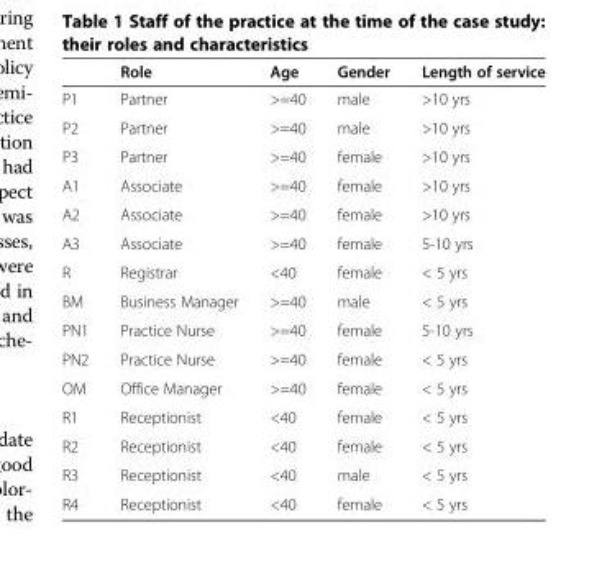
<table><thead><tr><td></td><td>Role</td><td>Age</td><td>Gender</td><td>Length of service</td></tr></thead><tbody><tr><td>P1</td><td>Partner</td><td>&gt;=40</td><td>male</td><td>&gt;10 yrs</td></tr><tr><td>P2</td><td>Partner</td><td>&gt;=40</td><td>male</td><td>&gt;10 yrs</td></tr><tr><td>P3</td><td>Partner</td><td>&gt;=40</td><td>female</td><td>&gt;10 yrs</td></tr><tr><td>A1</td><td>Associate</td><td>&gt;=40</td><td>female</td><td>&gt;10 yrs</td></tr><tr><td>A2</td><td>Associate</td><td>&gt;=40</td><td>female</td><td>&gt;10 yrs</td></tr><tr><td>A3</td><td>Associate</td><td>&gt;=40</td><td>female</td><td>5-10 yrs</td></tr><tr><td>R</td><td>Registrar</td><td>&lt;40</td><td>female</td><td>&lt; 5 yrs</td></tr><tr><td>BM</td><td>Business Manager</td><td>&gt;=40</td><td>male</td><td>&lt; 5 yrs</td></tr><tr><td>PN1</td><td>Practice Nurse</td><td>&gt;=40</td><td>female</td><td>5-10 yrs</td></tr><tr><td>PN2</td><td>Practice Nurse</td><td>&gt;=40</td><td>female</td><td>&lt; 5 yrs</td></tr><tr><td>OM</td><td>Office Manager</td><td>&gt;=40</td><td>female</td><td>&lt; 5 yrs</td></tr><tr><td>R1</td><td>Receptionist</td><td>&lt;40</td><td>female</td><td>&lt; 5 yrs</td></tr><tr><td>R2</td><td>Receptionist</td><td>&lt;40</td><td>female</td><td>&lt; 5 yrs</td></tr><tr><td>R3</td><td>Receptionist</td><td>&lt;40</td><td>male</td><td>&lt; 5 yrs</td></tr><tr><td>R4</td><td>Receptionist</td><td>&lt;40</td><td>female</td><td>&lt; 5 yrs</td></tr></tbody></table>